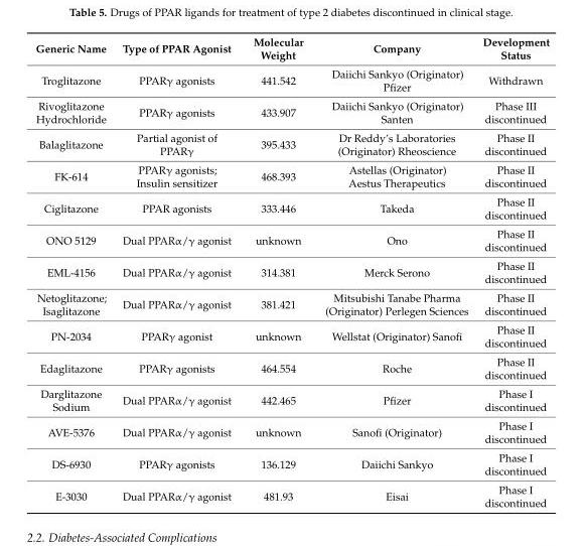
<table><thead><tr><td>Generic Name</td><td>Type of PPAR Agonist</td><td>Molecular Weight</td><td>Company</td><td>Development Status</td></tr></thead><tbody><tr><td>Troglitazone</td><td>PPARγ agonists</td><td>441.542</td><td>Daiichi Sankyo (Originator) Pfizer</td><td>Withdrawn</td></tr><tr><td>Rivoglitazone Hydrochloride</td><td>PPARγ agonists</td><td>433.907</td><td>Daiichi Sankyo (Originator) Santen</td><td>Phase III discontinued</td></tr><tr><td>Balaglitazone</td><td>Partial agonist of PPARγ</td><td>395.433</td><td>Dr Reddy’s Laboratories (Originator) Rheoscience</td><td>Phase II discontinued</td></tr><tr><td>FK-614</td><td>PPARγ agonists; Insulin sensitizer</td><td>468.393</td><td>Astellas (Originator) Aestus Therapeutics</td><td>Phase II discontinued</td></tr><tr><td>Ciglitazone</td><td>PPAR agonists</td><td>333.446</td><td>Takeda</td><td>Phase II discontinued</td></tr><tr><td>ONO 5129</td><td>Dual PPARα/γ agonist</td><td>unknown</td><td>Ono</td><td>Phase II discontinued</td></tr><tr><td>EML-4156</td><td>Dual PPARα/γ agonist</td><td>314.381</td><td>Merck Serono</td><td>Phase II discontinued</td></tr><tr><td>Netoglitazone; Isaglitazone</td><td>Dual PPARα/γ agonist</td><td>381.421</td><td>Mitsubishi Tanabe Pharma (Originator) Perlegen Sciences</td><td>Phase II discontinued</td></tr><tr><td>PN-2034</td><td>PPARγ agonist</td><td>unknown</td><td>Wellstat (Originator) Sanofi</td><td>Phase II discontinued</td></tr><tr><td>Edaglitazone</td><td>PPARγ agonists</td><td>464.554</td><td>Roche</td><td>Phase II discontinued</td></tr><tr><td>Darglitazone Sodium</td><td>Dual PPARα/γ agonist</td><td>442.465</td><td>Pfizer</td><td>Phase I discontinued</td></tr><tr><td>AVE-5376</td><td>Dual PPARα/γ agonist</td><td>unknown</td><td>Sanofi (Originator)</td><td>Phase I discontinued</td></tr><tr><td>DS-6930</td><td>PPARγ agonists</td><td>136.129</td><td>Daiichi Sankyo</td><td>Phase I discontinued</td></tr><tr><td>E-3030</td><td>Dual PPARα/γ agonist</td><td>481.93</td><td>Eisai</td><td>Phase I discontinued</td></tr></tbody></table>